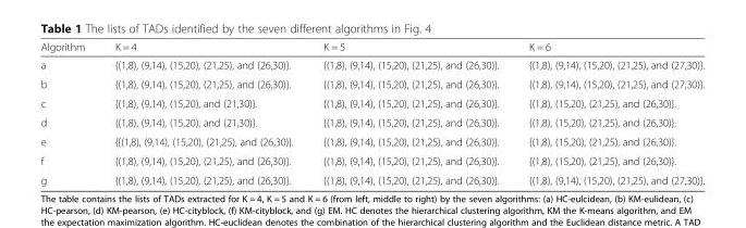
<table><thead><tr><td>Algorithm</td><td>K = 4</td><td>K = 5</td><td>K = 6</td></tr></thead><tbody><tr><td>a</td><td>{(1,8), (9,14), (15,20), (21,25), and (26,30)}.</td><td>{(1,8), (9,14), (15,20), (21,25), and (26,30)}.</td><td>{(1,8), (9,14), (15,20), (21,25), and (27,30)}.</td></tr><tr><td>b</td><td>{(1,8), (9,14), (15,20), (21,25), and (26,30)}.</td><td>{(1,8), (9,14), (15,20), (21,25), and (26,30)}.</td><td>{(1,8), (9,14), (15,20), (21,25), and (27,30)}.</td></tr><tr><td>c</td><td>{(1,8), (9,14), (15,20), and (21,30)}.</td><td>{(1,8), (9,14), (15,20), (21,25), and (26,30)}.</td><td>{(1,8), (15,20), (21,25), and (26,30)}.</td></tr><tr><td>d</td><td>{(1,8), (9,14), (15,20), and (21,30)}.</td><td>{(1,8), (9,14), (15,20), (21,25), and (26,30)}.</td><td>{(1,8), (15,20), (21,25), and (26,30)}.</td></tr><tr><td>e</td><td>{{(1,8), (9,14), (15,20), (21,25), and (26,30)}.</td><td>{(1,8), (9,14), (15,20), (21,25), and (26,30)}.</td><td>{(1,8), (15,20), (21,25), and (26,30)}.</td></tr><tr><td>f</td><td>{(1,8), (9,14), (15,20), (21,25), and (26,30)}.</td><td>{(1,8), (9,14), (15,20), (21,25), and (26,30)}.</td><td>{(1,8), (15,20), (21,25), and (26,30)}.</td></tr><tr><td>g</td><td>{(1,8), (9,14), (15,20), (21,25), and (26,30)}.</td><td>{(1,8), (9,14), (15,20), (21,25), and (26,30)}.</td><td>{(1,8), (9,14), (15,20), (21,25), and (27,30)}.</td></tr></tbody></table>